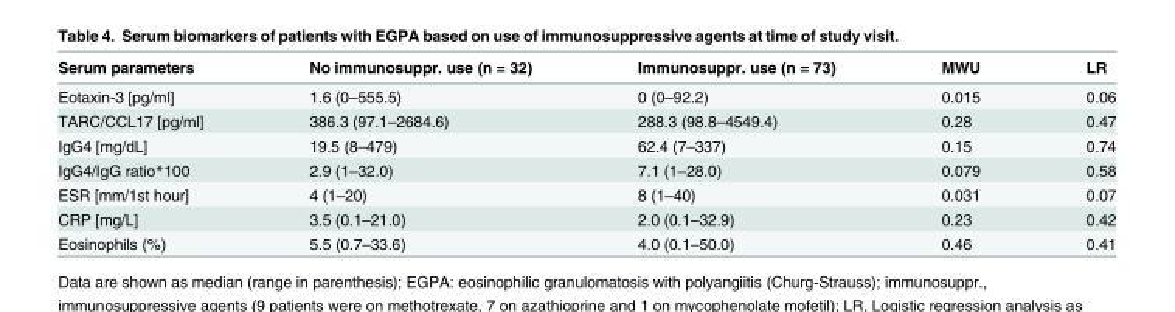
<table><thead><tr><td>Serum parameters</td><td>No immunosuppr. use (n = 32)</td><td>Immunosuppr. use (n = 73)</td><td>MWU</td><td>LR</td></tr></thead><tbody><tr><td>Eotaxin-3 [pg/ml]</td><td>1.6 (0–555.5)</td><td>0 (0–92.2)</td><td>0.015</td><td>0.06</td></tr><tr><td>TARC/CCL17 [pg/ml]</td><td>386.3 (97.1–2684.6)</td><td>288.3 (98.8–4549.4)</td><td>0.28</td><td>0.47</td></tr><tr><td>IgG4 [mg/dL]</td><td>19.5 (8–479)</td><td>62.4 (7–337)</td><td>0.15</td><td>0.74</td></tr><tr><td>IgG4/IgG ratio*100</td><td>2.9 (1–32.0)</td><td>7.1 (1–28.0)</td><td>0.079</td><td>0.58</td></tr><tr><td>ESR [mm/1st hour]</td><td>4 (1–20)</td><td>8 (1–40)</td><td>0.031</td><td>0.07</td></tr><tr><td>CRP [mg/L]</td><td>3.5 (0.1–21.0)</td><td>2.0 (0.1–32.9)</td><td>0.23</td><td>0.42</td></tr><tr><td>Eosinophils (%)</td><td>5.5 (0.7–33.6)</td><td>4.0 (0.1–50.0)</td><td>0.46</td><td>0.41</td></tr></tbody></table>